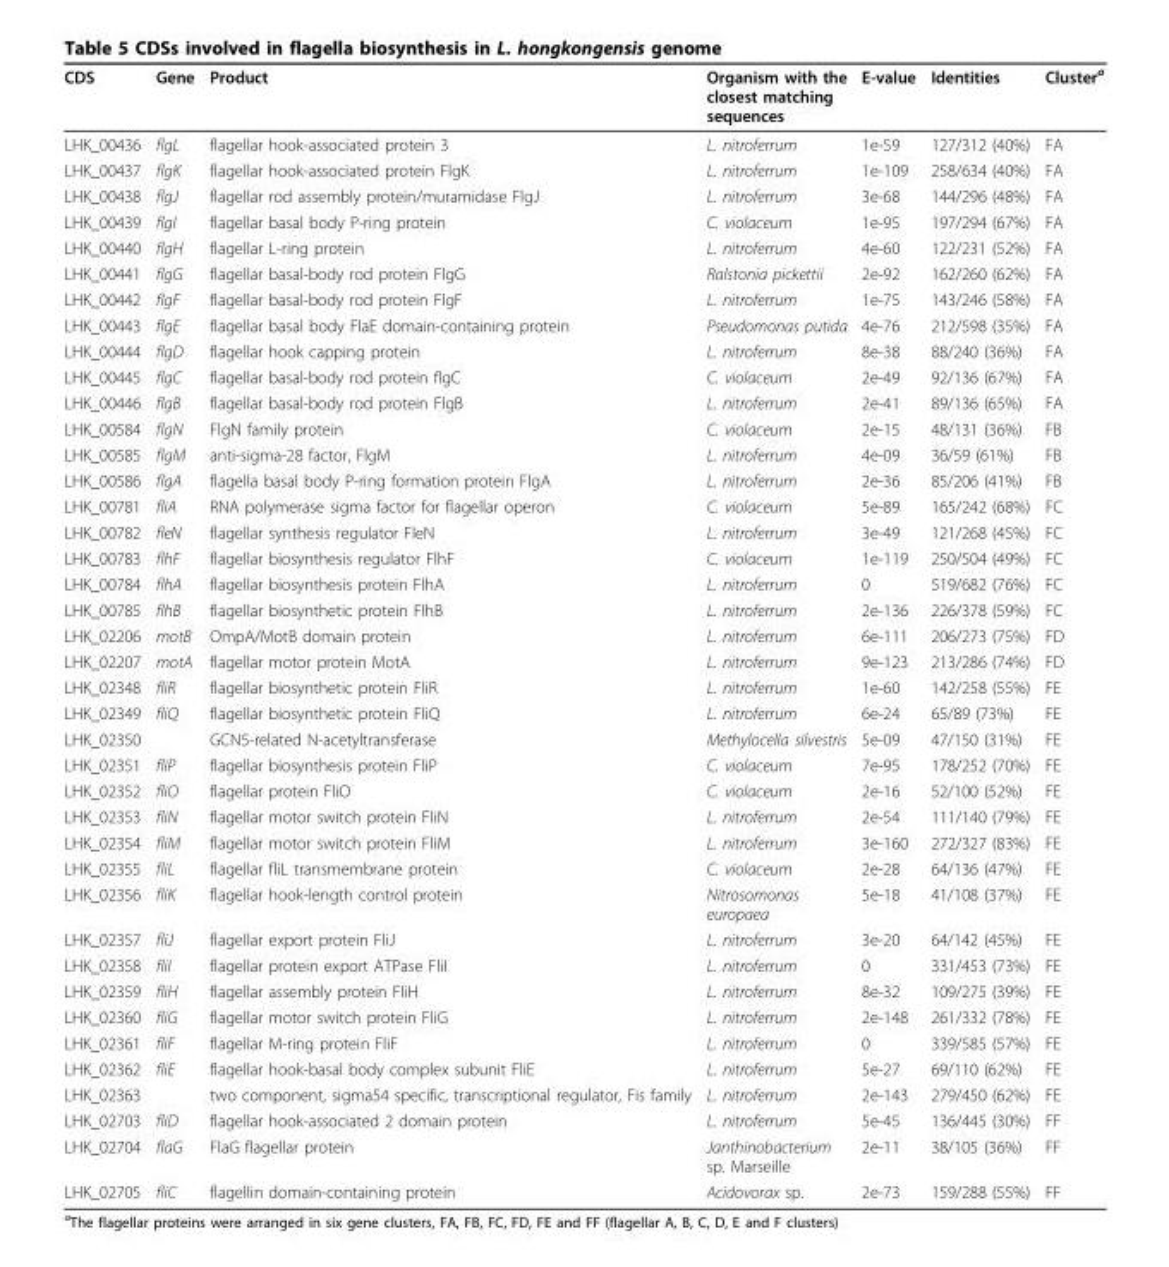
<table><thead><tr><td>CDS</td><td>Gene</td><td>Product</td><td>Organism with the closest matching sequences</td><td>E-value</td><td>Identities</td><td>Cluster<sup>a</sup></td></tr></thead><tbody><tr><td>LHK_00436</td><td>flgL</td><td>flagellar hook-associated protein 3</td><td>L. nitroferrum</td><td>1e-59</td><td>127/312 (40%)</td><td>FA</td></tr><tr><td>LHK_00437</td><td>flgK</td><td>flagellar hook-associated protein FlgK</td><td>L. nitroferrum</td><td>1e-109</td><td>258/634 (40%)</td><td>FA</td></tr><tr><td>LHK_00438</td><td>flgJ</td><td>flagellar rod assembly protein/muramidase FlgJ</td><td>L. nitroferrum</td><td>3e-68</td><td>144/296 (48%)</td><td>FA</td></tr><tr><td>LHK_00439</td><td>flgI</td><td>flagellar basal body P-ring protein</td><td>C. violaceum</td><td>1e-95</td><td>197/294 (67%)</td><td>FA</td></tr><tr><td>LHK_00440</td><td>flgH</td><td>flagellar L-ring protein</td><td>L. nitroferrum</td><td>4e-60</td><td>122/231 (52%)</td><td>FA</td></tr><tr><td>LHK_00441</td><td>flgG</td><td>flagellar basal-body rod protein FlgG</td><td>Ralstonia pickettii</td><td>2e-92</td><td>162/260 (62%)</td><td>FA</td></tr><tr><td>LHK_00442</td><td>flgF</td><td>flagellar basal-body rod protein FlgF</td><td>L. nitroferrum</td><td>1e-75</td><td>143/246 (58%)</td><td>FA</td></tr><tr><td>LHK_00443</td><td>flgE</td><td>flagellar basal body FlaE domain-containing protein</td><td>Pseudomonas putida</td><td>4e-76</td><td>212/598 (35%)</td><td>FA</td></tr><tr><td>LHK_00444</td><td>flgD</td><td>flagellar hook capping protein</td><td>L. nitroferrum</td><td>8e-38</td><td>88/240 (36%)</td><td>FA</td></tr><tr><td>LHK_00445</td><td>flgC</td><td>flagellar basal-body rod protein flgC</td><td>C. violaceum</td><td>2e-49</td><td>92/136 (67%)</td><td>FA</td></tr><tr><td>LHK_00446</td><td>flgB</td><td>flagellar basal-body rod protein FlgB</td><td>L. nitroferrum</td><td>2e-41</td><td>89/136 (65%)</td><td>FA</td></tr><tr><td>LHK_00584</td><td>flgN</td><td>FlgN family protein</td><td>C. violaceum</td><td>2e-15</td><td>48/131 (36%)</td><td>FB</td></tr><tr><td>LHK_00585</td><td>flgM</td><td>anti-sigma-28 factor, FlgM</td><td>L. nitroferrum</td><td>4e-09</td><td>36/59 (61%)</td><td>FB</td></tr><tr><td>LHK_00586</td><td>flgA</td><td>flagella basal body P-ring formation protein FlgA</td><td>L. nitroferrum</td><td>2e-36</td><td>85/206 (41%)</td><td>FB</td></tr><tr><td>LHK_00781</td><td>fliA</td><td>RNA polymerase sigma factor for flagellar operon</td><td>C. violaceum</td><td>5e-89</td><td>165/242 (68%)</td><td>FC</td></tr><tr><td>LHK_00782</td><td>fleN</td><td>flagellar synthesis regulator FleN</td><td>L. nitroferrum</td><td>3e-49</td><td>121/268 (45%)</td><td>FC</td></tr><tr><td>LHK_00783</td><td>flhF</td><td>flagellar biosynthesis regulator FlhF</td><td>C. violaceum</td><td>1e-119</td><td>250/504 (49%)</td><td>FC</td></tr><tr><td>LHK_00784</td><td>flhA</td><td>flagellar biosynthesis protein FlhA</td><td>L. nitroferrum</td><td>0</td><td>519/682 (76%)</td><td>FC</td></tr><tr><td>LHK_00785</td><td>flhB</td><td>flagellar biosynthetic protein FlhB</td><td>L. nitroferrum</td><td>2e-136</td><td>226/378 (59%)</td><td>FC</td></tr><tr><td>LHK_02206</td><td>motB</td><td>OmpA/MotB domain protein</td><td>L. nitroferrum</td><td>6e-111</td><td>206/273 (75%)</td><td>FD</td></tr><tr><td>LHK_02207</td><td>motA</td><td>flagellar motor protein MotA</td><td>L. nitroferrum</td><td>9e-123</td><td>213/286 (74%)</td><td>FD</td></tr><tr><td>LHK_02348</td><td>fliR</td><td>flagellar biosynthetic protein FliR</td><td>L. nitroferrum</td><td>1e-60</td><td>142/258 (55%)</td><td>FE</td></tr><tr><td>LHK_02349</td><td>fliQ</td><td>flagellar biosynthetic protein FliQ</td><td>L. nitroferrum</td><td>6e-24</td><td>65/89 (73%)</td><td>FE</td></tr><tr><td>LHK_02350</td><td></td><td>GCN5-related N-acetyltransferase</td><td>Methylocella silvestris</td><td>5e-09</td><td>47/150 (31%)</td><td>FE</td></tr><tr><td>LHK_02351</td><td>fliP</td><td>flagellar biosynthesis protein FliP</td><td>C. violaceum</td><td>7e-95</td><td>178/252 (70%)</td><td>FE</td></tr><tr><td>LHK_02352</td><td>fliO</td><td>flagellar protein FliO</td><td>C. violaceum</td><td>2e-16</td><td>52/100 (52%)</td><td>FE</td></tr><tr><td>LHK_02353</td><td>fliN</td><td>flagellar motor switch protein FliN</td><td>L. nitroferrum</td><td>2e-54</td><td>111/140 (79%)</td><td>FE</td></tr><tr><td>LHK_02354</td><td>fliM</td><td>flagellar motor switch protein FliM</td><td>L. nitroferrum</td><td>3e-160</td><td>272/327 (83%)</td><td>FE</td></tr><tr><td>LHK_02355</td><td>fliL</td><td>flagellar fliL transmembrane protein</td><td>C. violaceum</td><td>2e-28</td><td>64/136 (47%)</td><td>FE</td></tr><tr><td>LHK_02356</td><td>fliK</td><td>flagellar hook-length control protein</td><td>Nitrosomonas europaea</td><td>5e-18</td><td>41/108 (37%)</td><td>FE</td></tr><tr><td>LHK_02357</td><td>fliJ</td><td>flagellar export protein FliJ</td><td>L. nitroferrum</td><td>3e-20</td><td>64/142 (45%)</td><td>FE</td></tr><tr><td>LHK_02358</td><td>fliI</td><td>flagellar protein export ATPase FliI</td><td>L. nitroferrum</td><td>0</td><td>331/453 (73%)</td><td>FE</td></tr><tr><td>LHK_02359</td><td>fliH</td><td>flagellar assembly protein FliH</td><td>L. nitroferrum</td><td>8e-32</td><td>109/275 (39%)</td><td>FE</td></tr><tr><td>LHK_02360</td><td>fliG</td><td>flagellar motor switch protein FliG</td><td>L. nitroferrum</td><td>2e-148</td><td>261/332 (78%)</td><td>FE</td></tr><tr><td>LHK_02361</td><td>fliF</td><td>flagellar M-ring protein FliF</td><td>L. nitroferrum</td><td>0</td><td>339/585 (57%)</td><td>FE</td></tr><tr><td>LHK_02362</td><td>fliE</td><td>flagellar hook-basal body complex subunit FliE</td><td>L. nitroferrum</td><td>5e-27</td><td>69/110 (62%)</td><td>FE</td></tr><tr><td>LHK_02363</td><td></td><td>two component, sigma54 specific, transcriptional regulator, Fis family</td><td>L. nitroferrum</td><td>2e-143</td><td>279/450 (62%)</td><td>FE</td></tr><tr><td>LHK_02703</td><td>fliD</td><td>flagellar hook-associated 2 domain protein</td><td>L. nitroferrum</td><td>5e-45</td><td>136/445 (30%)</td><td>FF</td></tr><tr><td>LHK_02704</td><td>flaG</td><td>FlaG flagellar protein</td><td>Janthinobacterium sp. Marseille</td><td>2e-11</td><td>38/105 (36%)</td><td>FF</td></tr><tr><td>LHK_02705</td><td>fliC</td><td>flagellin domain-containing protein</td><td>Acidovorax sp.</td><td>2e-73</td><td>159/288 (55%)</td><td>FF</td></tr></tbody></table>